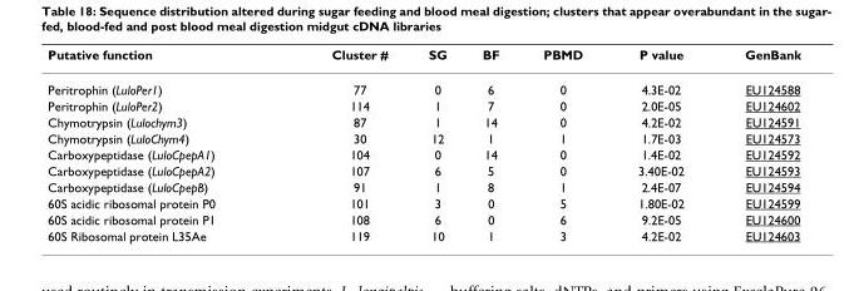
<table><thead><tr><td>Putative function</td><td>Cluster #</td><td>SG</td><td>BF</td><td>PBMD</td><td>P value</td><td>GenBank</td></tr></thead><tbody><tr><td>Peritrophin (LuloPer1)</td><td>77</td><td>0</td><td>6</td><td>0</td><td>4.3E-02</td><td>EU124588</td></tr><tr><td>Peritrophin (LuloPer2)</td><td>114</td><td>1</td><td>7</td><td>0</td><td>2.0E-05</td><td>EU124602</td></tr><tr><td>Chymotrypsin (Lulochym3)</td><td>87</td><td>1</td><td>14</td><td>0</td><td>4.2E-02</td><td>EU124591</td></tr><tr><td>Chymotrypsin (LuloChym4)</td><td>30</td><td>12</td><td>1</td><td>1</td><td>1.7E-03</td><td>EU124573</td></tr><tr><td>Carboxypeptidase (LuloCpepA1)</td><td>104</td><td>0</td><td>14</td><td>0</td><td>1.4E-02</td><td>EU124592</td></tr><tr><td>Carboxypeptidase (LuloCpepA2)</td><td>107</td><td>6</td><td>5</td><td>0</td><td>3.40E-02</td><td>EU124593</td></tr><tr><td>Carboxypeptidase (LuloCpepB)</td><td>91</td><td>1</td><td>8</td><td>1</td><td>2.4E-07</td><td>EU124594</td></tr><tr><td>60S acidic ribosomal protein P0</td><td>101</td><td>3</td><td>0</td><td>5</td><td>1.80E-02</td><td>EU124599</td></tr><tr><td>60S acidic ribosomal protein P1</td><td>108</td><td>6</td><td>0</td><td>6</td><td>9.2E-05</td><td>EU124600</td></tr><tr><td>60S Ribosomal protein L35Ae</td><td>119</td><td>10</td><td>1</td><td>3</td><td>4.2E-02</td><td>EU124603</td></tr></tbody></table>